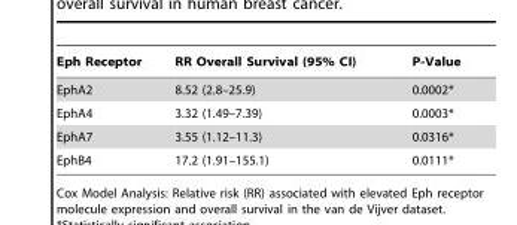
<table><thead><tr><td>Eph Receptor</td><td>RR Overall Survival (95% CI)</td><td>P-Value</td></tr></thead><tbody><tr><td>EphA2</td><td>8.52 (2.8–25.9)</td><td>0.0002*</td></tr><tr><td>EphA4</td><td>3.32 (1.49–7.39)</td><td>0.0003*</td></tr><tr><td>EphA7</td><td>3.55 (1.12–11.3)</td><td>0.0316*</td></tr><tr><td>EphB4</td><td>17.2 (1.91–155.1)</td><td>0.0111*</td></tr></tbody></table>